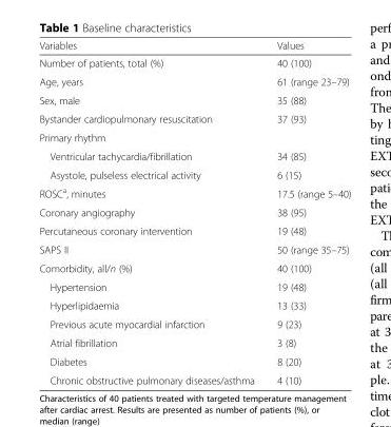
<table><thead><tr><td>Variables</td><td>Values</td></tr></thead><tbody><tr><td>Number of patients, total (%)</td><td>40 (100)</td></tr><tr><td>Age, years</td><td>61 (range 23–79)</td></tr><tr><td>Sex, male</td><td>35 (88)</td></tr><tr><td>Bystander cardiopulmonary resuscitation</td><td>37 (93)</td></tr><tr><td colspan="2">Primary rhythm</td></tr><tr><td>Ventricular tachycardia/fibrillation</td><td>34 (85)</td></tr><tr><td>Asystole, pulseless electrical activity</td><td>6 (15)</td></tr><tr><td>ROSC<sup>a</sup>, minutes</td><td>17.5 (range 5–40)</td></tr><tr><td>Coronary angiography</td><td>38 (95)</td></tr><tr><td>Percutaneous coronary intervention</td><td>19 (48)</td></tr><tr><td>SAPS II</td><td>50 (range 35–75)</td></tr><tr><td>Comorbidity, all/n (%)</td><td>40 (100)</td></tr><tr><td>Hypertension</td><td>19 (48)</td></tr><tr><td>Hyperlipidaemia</td><td>13 (33)</td></tr><tr><td>Previous acute myocardial infarction</td><td>9 (23)</td></tr><tr><td>Atrial fibrillation</td><td>3 (8)</td></tr><tr><td>Diabetes</td><td>8 (20)</td></tr><tr><td>Chronic obstructive pulmonary diseases/asthma</td><td>4 (10)</td></tr></tbody></table>